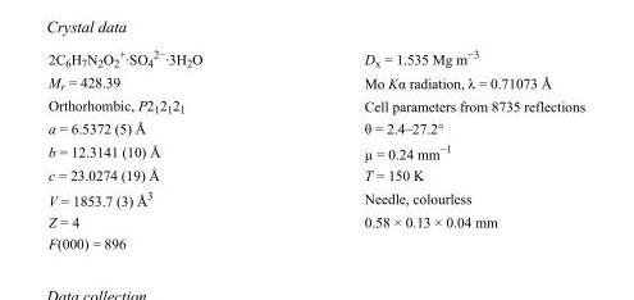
<table><tbody><tr><td>2C<sub>6</sub>H<sub>7</sub>N<sub>2</sub>O<sub>2</sub> <sup>+</sup>·SO<sub>4</sub> <sup>2−</sup>·3H<sub>2</sub>O</td><td>D<sub>x</sub> = 1.535 Mg m<sup>−3</sup></td></tr><tr><td>M<sub>r</sub> = 428.39</td><td>Mo Kα radiation, λ = 0.71073 Å</td></tr><tr><td>Orthorhombic, P2<sub>1</sub>2<sub>1</sub>2<sub>1</sub></td><td>Cell parameters from 8735 reflections</td></tr><tr><td>a = 6.5372 (5) Å</td><td>θ = 2.4–27.2°</td></tr><tr><td>b = 12.3141 (10) Å</td><td>µ = 0.24 mm<sup>−1</sup></td></tr><tr><td>c = 23.0274 (19) Å</td><td>T = 150 K</td></tr><tr><td>V = 1853.7 (3) Å<sup>3</sup></td><td>Needle, colourless</td></tr><tr><td>Z = 4</td><td>0.58 × 0.13 × 0.04 mm</td></tr><tr><td>F(000) = 896</td><td></td></tr></tbody></table>